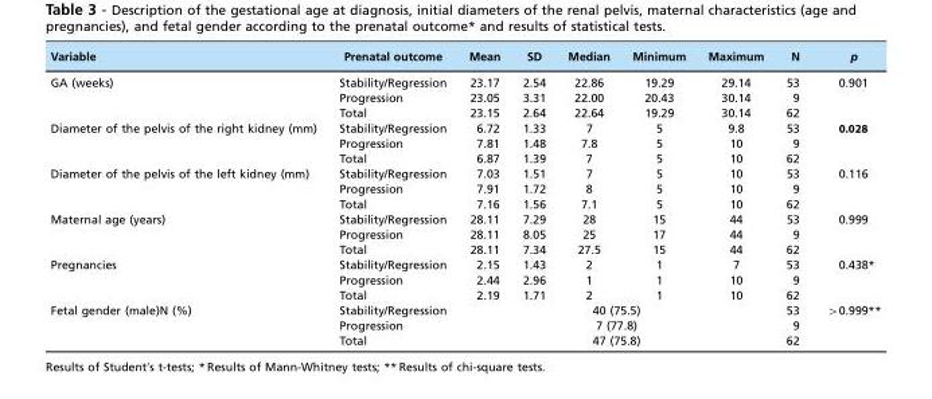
<table><thead><tr><td>Variable</td><td>Prenatal outcome</td><td>Mean</td><td>SD</td><td>Median</td><td>Minimum</td><td>Maximum</td><td>N</td><td>p</td></tr></thead><tbody><tr><td rowspan="3">GA (weeks)</td><td>Stability/Regression</td><td>23.17</td><td>2.54</td><td>22.86</td><td>19.29</td><td>29.14</td><td>53</td><td rowspan="2">0.901</td></tr><tr><td>Progression</td><td>23.05</td><td>3.31</td><td>22.00</td><td>20.43</td><td>30.14</td><td>9</td></tr><tr><td>Total</td><td>23.15</td><td>2.64</td><td>22.64</td><td>19.29</td><td>30.14</td><td>62</td><td></td></tr><tr><td rowspan="3">Diameter of the pelvis of the right kidney (mm)</td><td>Stability/Regression</td><td>6.72</td><td>1.33</td><td>7</td><td>5</td><td>9.8</td><td>53</td><td rowspan="2">0.028</td></tr><tr><td>Progression</td><td>7.81</td><td>1.48</td><td>7.8</td><td>5</td><td>10</td><td>9</td></tr><tr><td>Total</td><td>6.87</td><td>1.39</td><td>7</td><td>5</td><td>10</td><td>62</td><td></td></tr><tr><td rowspan="3">Diameter of the pelvis of the left kidney (mm)</td><td>Stability/Regression</td><td>7.03</td><td>1.51</td><td>7</td><td>5</td><td>10</td><td>53</td><td rowspan="2">0.116</td></tr><tr><td>Progression</td><td>7.91</td><td>1.72</td><td>8</td><td>5</td><td>10</td><td>9</td></tr><tr><td>Total</td><td>7.16</td><td>1.56</td><td>7.1</td><td>5</td><td>10</td><td>62</td><td></td></tr><tr><td rowspan="3">Maternal age (years)</td><td>Stability/Regression</td><td>28.11</td><td>7.29</td><td>28</td><td>15</td><td>44</td><td>53</td><td rowspan="2">0.999</td></tr><tr><td>Progression</td><td>28.11</td><td>8.05</td><td>25</td><td>17</td><td>44</td><td>9</td></tr><tr><td>Total</td><td>28.11</td><td>7.34</td><td>27.5</td><td>15</td><td>44</td><td>62</td><td></td></tr><tr><td rowspan="3">Pregnancies</td><td>Stability/Regression</td><td>2.15</td><td>1.43</td><td>2</td><td>1</td><td>7</td><td>53</td><td rowspan="2">0.438*</td></tr><tr><td>Progression</td><td>2.44</td><td>2.96</td><td>1</td><td>1</td><td>10</td><td>9</td></tr><tr><td>Total</td><td>2.19</td><td>1.71</td><td>2</td><td>1</td><td>10</td><td>62</td><td></td></tr><tr><td rowspan="3">Fetal gender (male)N (%)</td><td>Stability/Regression</td><td colspan="5">40 (75.5)</td><td>53</td><td rowspan="2">&gt;0.999**</td></tr><tr><td>Progression</td><td colspan="5">7 (77.8)</td><td>9</td></tr><tr><td>Total</td><td colspan="5">47 (75.8)</td><td>62</td><td></td></tr></tbody></table>